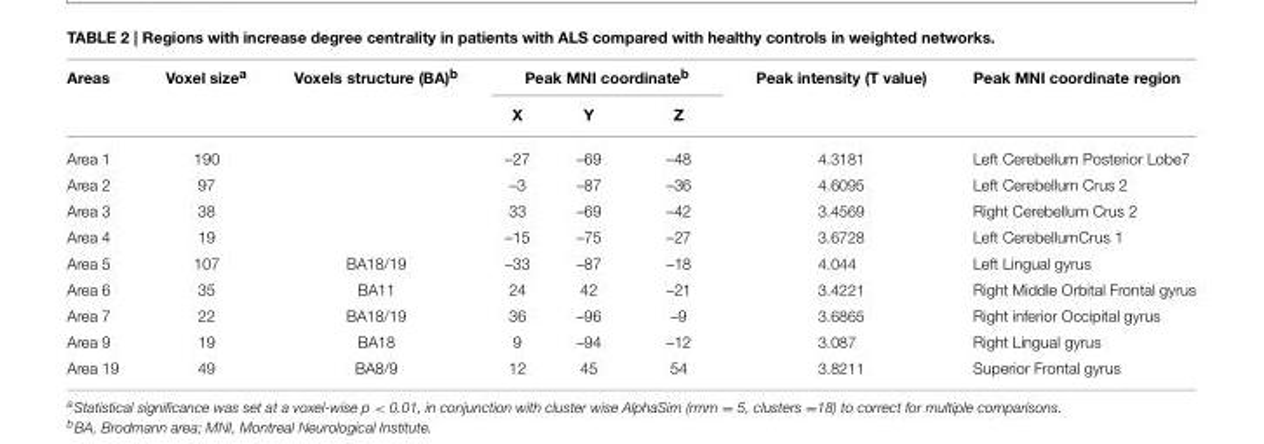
<table><thead><tr><td rowspan="2">Areas</td><td rowspan="2">Voxel size<sup>a</sup></td><td rowspan="2">Voxels structure (BA)<sup>b</sup></td><td colspan="3">Peak MNI coordinate<sup>b</sup></td><td rowspan="2">Peak intensity (T value)</td><td rowspan="2">Peak MNI coordinate region</td></tr><tr><td>X</td><td>Y</td><td>Z</td></tr></thead><tbody><tr><td>Area 1</td><td>190</td><td></td><td>–27</td><td>–69</td><td>–48</td><td>4.3181</td><td>Left Cerebellum Posterior Lobe7</td></tr><tr><td>Area 2</td><td>97</td><td></td><td>–3</td><td>–87</td><td>–36</td><td>4.6095</td><td>Left Cerebellum Crus 2</td></tr><tr><td>Area 3</td><td>38</td><td></td><td>33</td><td>–69</td><td>–42</td><td>3.4569</td><td>Right Cerebellum Crus 2</td></tr><tr><td>Area 4</td><td>19</td><td></td><td>–15</td><td>–75</td><td>–27</td><td>3.6728</td><td>Left CerebellumCrus 1</td></tr><tr><td>Area 5</td><td>107</td><td>BA18/19</td><td>–33</td><td>–87</td><td>–18</td><td>4.044</td><td>Left Lingual gyrus</td></tr><tr><td>Area 6</td><td>35</td><td>BA11</td><td>24</td><td>42</td><td>–21</td><td>3.4221</td><td>Right Middle Orbital Frontal gyrus</td></tr><tr><td>Area 7</td><td>22</td><td>BA18/19</td><td>36</td><td>–96</td><td>–9</td><td>3.6865</td><td>Right inferior Occipital gyrus</td></tr><tr><td>Area 9</td><td>19</td><td>BA18</td><td>9</td><td>–94</td><td>–12</td><td>3.087</td><td>Right Lingual gyrus</td></tr><tr><td>Area 19</td><td>49</td><td>BA8/9</td><td>12</td><td>45</td><td>54</td><td>3.8211</td><td>Superior Frontal gyrus</td></tr></tbody></table>